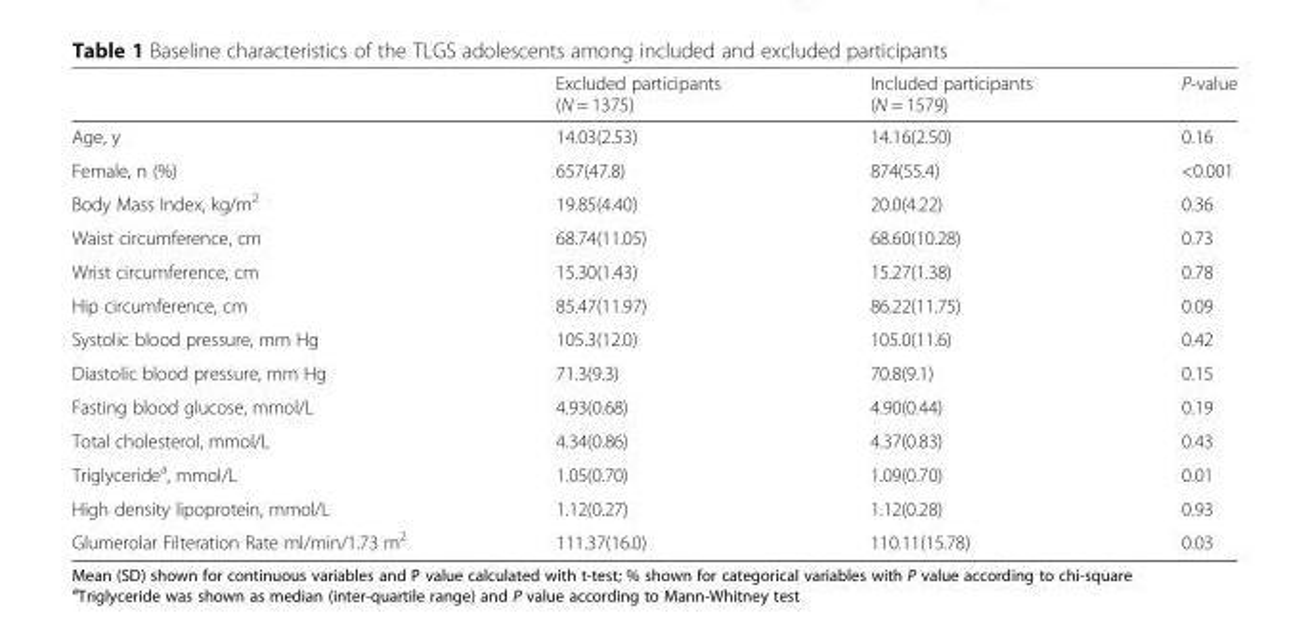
<table><thead><tr><td></td><td>Excluded participants (N = 1375)</td><td>Included participants (N = 1579)</td><td>P-value</td></tr></thead><tbody><tr><td>Age, y</td><td>14.03(2.53)</td><td>14.16(2.50)</td><td>0.16</td></tr><tr><td>Female, n (%)</td><td>657(47.8)</td><td>874(55.4)</td><td>&lt;0.001</td></tr><tr><td>Body Mass Index, kg/m<sup>2</sup></td><td>19.85(4.40)</td><td>20.0(4.22)</td><td>0.36</td></tr><tr><td>Waist circumference, cm</td><td>68.74(11.05)</td><td>68.60(10.28)</td><td>0.73</td></tr><tr><td>Wrist circumference, cm</td><td>15.30(1.43)</td><td>15.27(1.38)</td><td>0.78</td></tr><tr><td>Hip circumference, cm</td><td>85.47(11.97)</td><td>86.22(11.75)</td><td>0.09</td></tr><tr><td>Systolic blood pressure, mm Hg</td><td>105.3(12.0)</td><td>105.0(11.6)</td><td>0.42</td></tr><tr><td>Diastolic blood pressure, mm Hg</td><td>71.3(9.3)</td><td>70.8(9.1)</td><td>0.15</td></tr><tr><td>Fasting blood glucose, mmol/L</td><td>4.93(0.68)</td><td>4.90(0.44)</td><td>0.19</td></tr><tr><td>Total cholesterol, mmol/L</td><td>4.34(0.86)</td><td>4.37(0.83)</td><td>0.43</td></tr><tr><td>Triglyceride<sup>a</sup>, mmol/L</td><td>1.05(0.70)</td><td>1.09(0.70)</td><td>0.01</td></tr><tr><td>High density lipoprotein, mmol/L</td><td>1.12(0.27)</td><td>1.12(0.28)</td><td>0.93</td></tr><tr><td>Glumerolar Filteration Rate ml/min/1.73 m<sup>2</sup></td><td>111.37(16.0)</td><td>110.11(15.78)</td><td>0.03</td></tr></tbody></table>